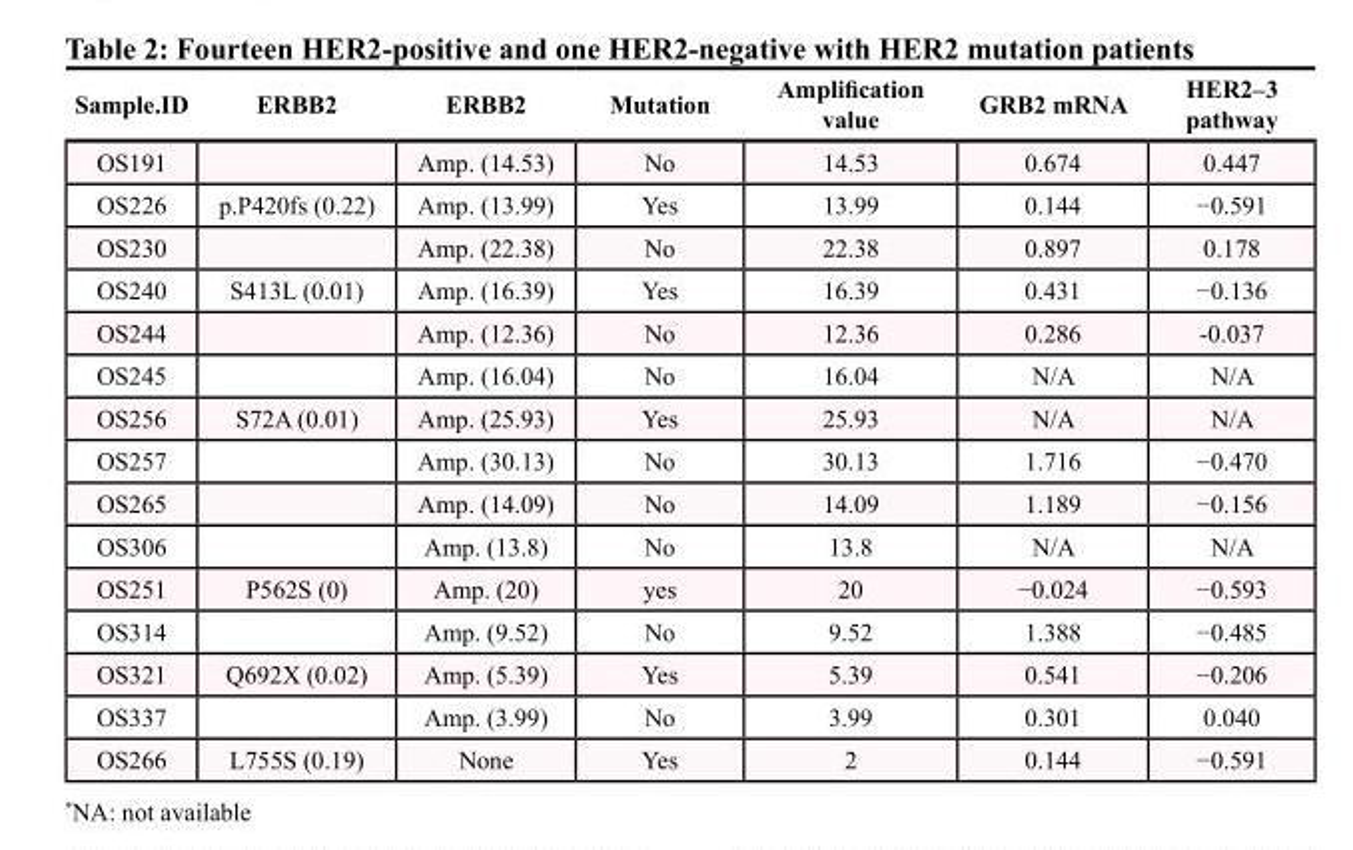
<table><thead><tr><td>Sample.ID</td><td>ERBB2</td><td>ERBB2</td><td>Mutation</td><td>Amplification value</td><td>GRB2 mRNA</td><td>HER2–3 pathway</td></tr></thead><tbody><tr><td>OS191</td><td></td><td>Amp. (14.53)</td><td>No</td><td>14.53</td><td>0.674</td><td>0.447</td></tr><tr><td>OS226</td><td>p.P420fs (0.22)</td><td>Amp. (13.99)</td><td>Yes</td><td>13.99</td><td>0.144</td><td>−0.591</td></tr><tr><td>OS230</td><td></td><td>Amp. (22.38)</td><td>No</td><td>22.38</td><td>0.897</td><td>0.178</td></tr><tr><td>OS240</td><td>S413L (0.01)</td><td>Amp. (16.39)</td><td>Yes</td><td>16.39</td><td>0.431</td><td>−0.136</td></tr><tr><td>OS244</td><td></td><td>Amp. (12.36)</td><td>No</td><td>12.36</td><td>0.286</td><td>-0.037</td></tr><tr><td>OS245</td><td></td><td>Amp. (16.04)</td><td>No</td><td>16.04</td><td>N/A</td><td>N/A</td></tr><tr><td>OS256</td><td>S72A (0.01)</td><td>Amp. (25.93)</td><td>Yes</td><td>25.93</td><td>N/A</td><td>N/A</td></tr><tr><td>OS257</td><td></td><td>Amp. (30.13)</td><td>No</td><td>30.13</td><td>1.716</td><td>−0.470</td></tr><tr><td>OS265</td><td></td><td>Amp. (14.09)</td><td>No</td><td>14.09</td><td>1.189</td><td>−0.156</td></tr><tr><td>OS306</td><td></td><td>Amp. (13.8)</td><td>No</td><td>13.8</td><td>N/A</td><td>N/A</td></tr><tr><td>OS251</td><td>P562S (0)</td><td>Amp. (20)</td><td>yes</td><td>20</td><td>−0.024</td><td>−0.593</td></tr><tr><td>OS314</td><td></td><td>Amp. (9.52)</td><td>No</td><td>9.52</td><td>1.388</td><td>−0.485</td></tr><tr><td>OS321</td><td>Q692X (0.02)</td><td>Amp. (5.39)</td><td>Yes</td><td>5.39</td><td>0.541</td><td>−0.206</td></tr><tr><td>OS337</td><td></td><td>Amp. (3.99)</td><td>No</td><td>3.99</td><td>0.301</td><td>0.040</td></tr><tr><td>OS266</td><td>L755S (0.19)</td><td>None</td><td>Yes</td><td>2</td><td>0.144</td><td>−0.591</td></tr></tbody></table>